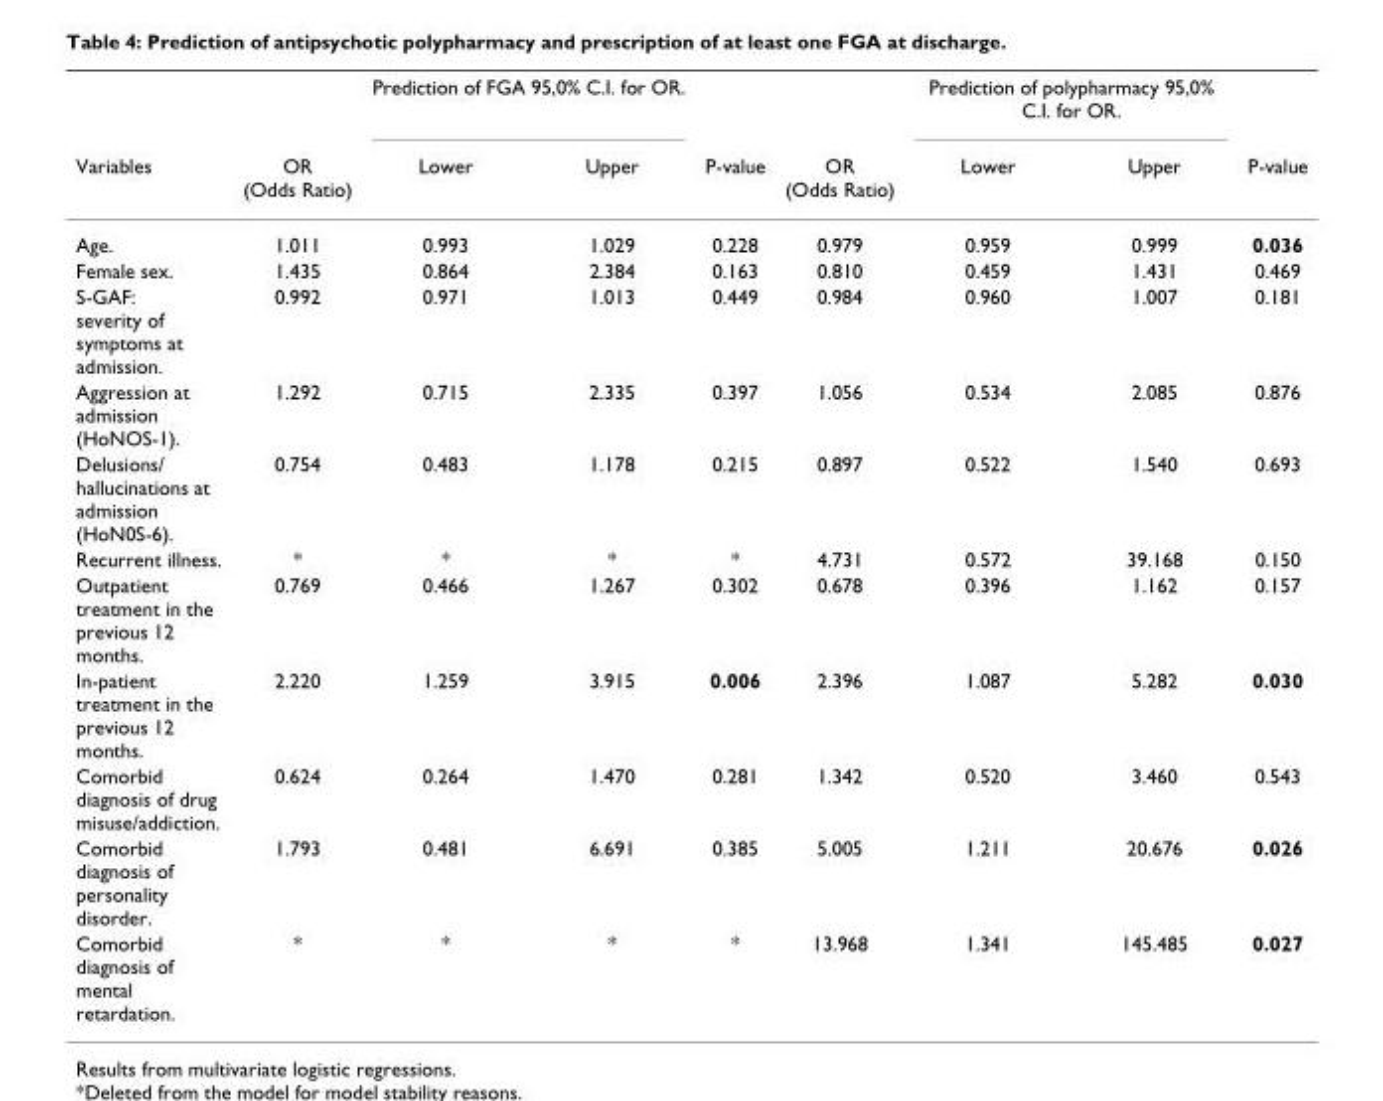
<table><thead><tr><td rowspan="2">Variables</td><td rowspan="2">OR (Odds Ratio)</td><td colspan="2">Prediction of FGA 95,0% C.I. for OR.</td><td rowspan="2">P-value</td><td rowspan="2">OR (Odds Ratio)</td><td colspan="2">Prediction of polypharmacy 95,0% C.I. for OR.</td><td rowspan="2">P-value</td></tr><tr><td>Lower</td><td>Upper</td><td>Lower</td><td>Upper</td></tr></thead><tbody><tr><td>Age.</td><td>1.011</td><td>0.993</td><td>1.029</td><td>0.228</td><td>0.979</td><td>0.959</td><td>0.999</td><td>0.036</td></tr><tr><td>Female sex.</td><td>1.435</td><td>0.864</td><td>2.384</td><td>0.163</td><td>0.810</td><td>0.459</td><td>1.431</td><td>0.469</td></tr><tr><td>S-GAF: severity of symptoms at admission.</td><td>0.992</td><td>0.971</td><td>1.013</td><td>0.449</td><td>0.984</td><td>0.960</td><td>1.007</td><td>0.181</td></tr><tr><td>Aggression at admission (HoNOS-1).</td><td>1.292</td><td>0.715</td><td>2.335</td><td>0.397</td><td>1.056</td><td>0.534</td><td>2.085</td><td>0.876</td></tr><tr><td>Delusions/ hallucinations at admission (HoN0S-6).</td><td>0.754</td><td>0.483</td><td>1.178</td><td>0.215</td><td>0.897</td><td>0.522</td><td>1.540</td><td>0.693</td></tr><tr><td>Recurrent illness.</td><td>*</td><td>*</td><td>*</td><td>*</td><td>4.731</td><td>0.572</td><td>39.168</td><td>0.150</td></tr><tr><td>Outpatient treatment in the previous 12 months.</td><td>0.769</td><td>0.466</td><td>1.267</td><td>0.302</td><td>0.678</td><td>0.396</td><td>1.162</td><td>0.157</td></tr><tr><td>In-patient treatment in the previous 12 months.</td><td>2.220</td><td>1.259</td><td>3.915</td><td>0.006</td><td>2.396</td><td>1.087</td><td>5.282</td><td>0.030</td></tr><tr><td>Comorbid diagnosis of drug misuse/addiction.</td><td>0.624</td><td>0.264</td><td>1.470</td><td>0.281</td><td>1.342</td><td>0.520</td><td>3.460</td><td>0.543</td></tr><tr><td>Comorbid diagnosis of personality disorder.</td><td>1.793</td><td>0.481</td><td>6.691</td><td>0.385</td><td>5.005</td><td>1.211</td><td>20.676</td><td>0.026</td></tr><tr><td>Comorbid diagnosis of mental retardation.</td><td>*</td><td>*</td><td>*</td><td>*</td><td>13.968</td><td>1.341</td><td>145.485</td><td>0.027</td></tr></tbody></table>